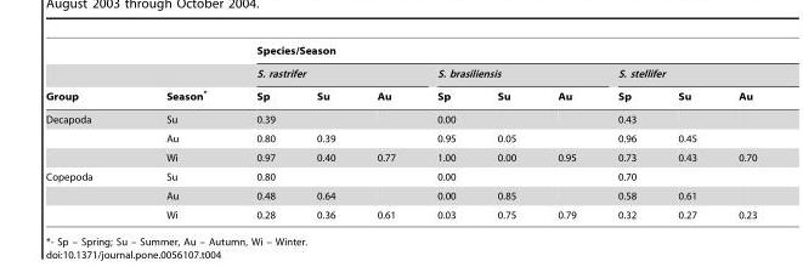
<table><thead><tr><td rowspan="3">Group</td><td rowspan="3">Season*</td><td colspan="9">Species/Season</td></tr><tr><td colspan="3">S. rastrifer</td><td colspan="3">S. brasiliensis</td><td colspan="3">S. stellifer</td></tr><tr><td>Sp</td><td>Su</td><td>Au</td><td>Sp</td><td>Su</td><td>Au</td><td>Sp</td><td>Su</td><td>Au</td></tr></thead><tbody><tr><td rowspan="3">Decapoda</td><td>Su</td><td>0.39</td><td></td><td></td><td>0.00</td><td></td><td></td><td>0.43</td><td></td><td></td></tr><tr><td>Au</td><td>0.80</td><td>0.39</td><td></td><td>0.95</td><td>0.05</td><td></td><td>0.96</td><td>0.45</td><td></td></tr><tr><td>Wi</td><td>0.97</td><td>0.40</td><td>0.77</td><td>1.00</td><td>0.00</td><td>0.95</td><td>0.73</td><td>0.43</td><td>0.70</td></tr><tr><td rowspan="3">Copepoda</td><td>Su</td><td>0.80</td><td></td><td></td><td>0.00</td><td></td><td></td><td>0.70</td><td></td><td></td></tr><tr><td>Au</td><td>0.48</td><td>0.64</td><td></td><td>0.00</td><td>0.85</td><td></td><td>0.58</td><td>0.61</td><td></td></tr><tr><td>Wi</td><td>0.28</td><td>0.36</td><td>0.61</td><td>0.03</td><td>0.75</td><td>0.79</td><td>0.32</td><td>0.27</td><td>0.23</td></tr></tbody></table>